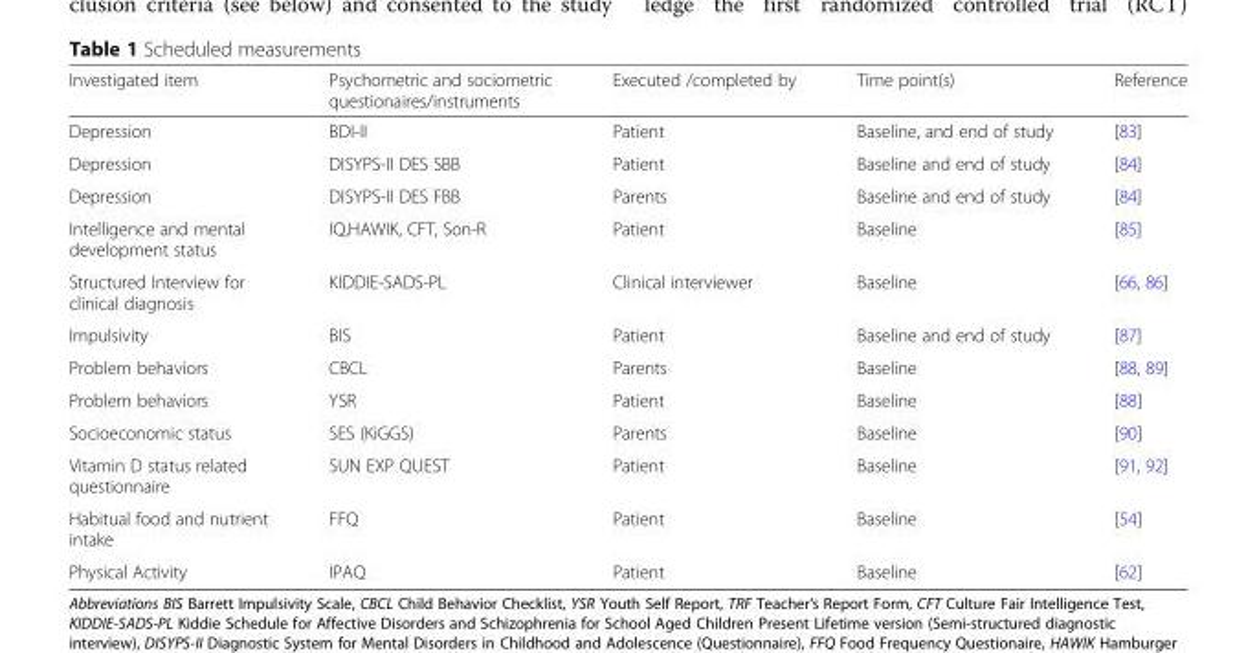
<table><thead><tr><td>Investigated item</td><td>Psychometric and sociometric questionaires/instruments</td><td>Executed /completed by</td><td>Time point(s)</td><td>Reference</td></tr></thead><tbody><tr><td>Depression</td><td>BDI-II</td><td>Patient</td><td>Baseline, and end of study</td><td>[83]</td></tr><tr><td>Depression</td><td>DISYPS-II DES SBB</td><td>Patient</td><td>Baseline and end of study</td><td>[84]</td></tr><tr><td>Depression</td><td>DISYPS-II DES FBB</td><td>Parents</td><td>Baseline and end of study</td><td>[84]</td></tr><tr><td>Intelligence and mental development status</td><td>IQ,HAWIK, CFT, Son-R</td><td>Patient</td><td>Baseline</td><td>[85]</td></tr><tr><td>Structured Interview for clinical diagnosis</td><td>KIDDIE-SADS-PL</td><td>Clinical interviewer</td><td>Baseline</td><td>[66, 86]</td></tr><tr><td>Impulsivity</td><td>BIS</td><td>Patient</td><td>Baseline and end of study</td><td>[87]</td></tr><tr><td>Problem behaviors</td><td>CBCL</td><td>Parents</td><td>Baseline</td><td>[88, 89]</td></tr><tr><td>Problem behaviors</td><td>YSR</td><td>Patient</td><td>Baseline</td><td>[88]</td></tr><tr><td>Socioeconomic status</td><td>SES (KiGGS)</td><td>Parents</td><td>Baseline</td><td>[90]</td></tr><tr><td>Vitamin D status related questionnaire</td><td>SUN EXP QUEST</td><td>Patient</td><td>Baseline</td><td>[91, 92]</td></tr><tr><td>Habitual food and nutrient intake</td><td>FFQ</td><td>Patient</td><td>Baseline</td><td>[54]</td></tr><tr><td>Physical Activity</td><td>IPAQ</td><td>Patient</td><td>Baseline</td><td>[62]</td></tr></tbody></table>